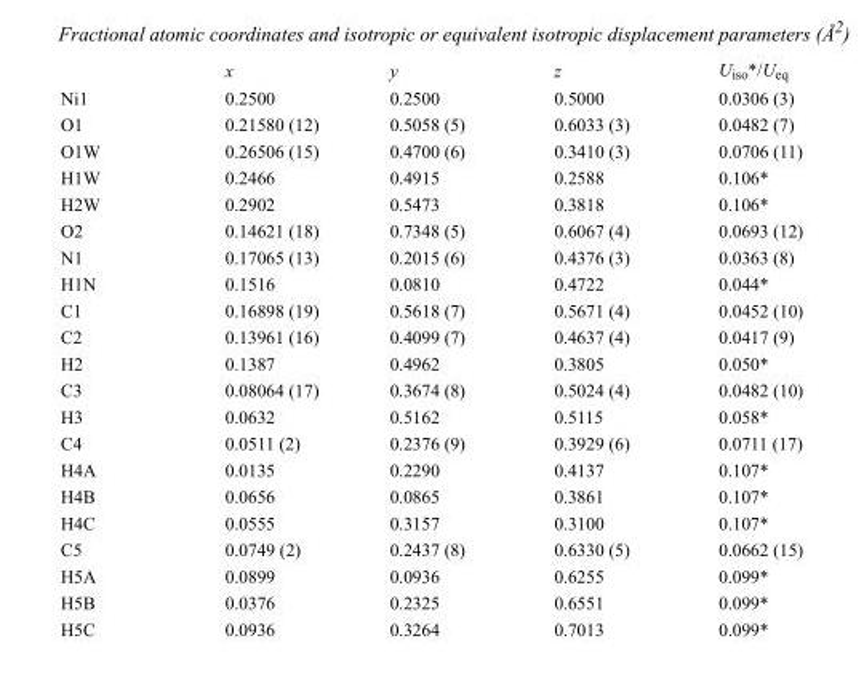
<table><thead><tr><td></td><td>x</td><td>y</td><td>z</td><td>U<sub>iso</sub>*/U<sub>eq</sub></td></tr></thead><tbody><tr><td>Ni1</td><td>0.2500</td><td>0.2500</td><td>0.5000</td><td>0.0306 (3)</td></tr><tr><td>O1</td><td>0.21580 (12)</td><td>0.5058 (5)</td><td>0.6033 (3)</td><td>0.0482 (7)</td></tr><tr><td>O1W</td><td>0.26506 (15)</td><td>0.4700 (6)</td><td>0.3410 (3)</td><td>0.0706 (11)</td></tr><tr><td>H1W</td><td>0.2466</td><td>0.4915</td><td>0.2588</td><td>0.106*</td></tr><tr><td>H2W</td><td>0.2902</td><td>0.5473</td><td>0.3818</td><td>0.106*</td></tr><tr><td>O2</td><td>0.14621 (18)</td><td>0.7348 (5)</td><td>0.6067 (4)</td><td>0.0693 (12)</td></tr><tr><td>N1</td><td>0.17065 (13)</td><td>0.2015 (6)</td><td>0.4376 (3)</td><td>0.0363 (8)</td></tr><tr><td>H1N</td><td>0.1516</td><td>0.0810</td><td>0.4722</td><td>0.044*</td></tr><tr><td>C1</td><td>0.16898 (19)</td><td>0.5618 (7)</td><td>0.5671 (4)</td><td>0.0452 (10)</td></tr><tr><td>C2</td><td>0.13961 (16)</td><td>0.4099 (7)</td><td>0.4637 (4)</td><td>0.0417 (9)</td></tr><tr><td>H2</td><td>0.1387</td><td>0.4962</td><td>0.3805</td><td>0.050*</td></tr><tr><td>C3</td><td>0.08064 (17)</td><td>0.3674 (8)</td><td>0.5024 (4)</td><td>0.0482 (10)</td></tr><tr><td>H3</td><td>0.0632</td><td>0.5162</td><td>0.5115</td><td>0.058*</td></tr><tr><td>C4</td><td>0.0511 (2)</td><td>0.2376 (9)</td><td>0.3929 (6)</td><td>0.0711 (17)</td></tr><tr><td>H4A</td><td>0.0135</td><td>0.2290</td><td>0.4137</td><td>0.107*</td></tr><tr><td>H4B</td><td>0.0656</td><td>0.0865</td><td>0.3861</td><td>0.107*</td></tr><tr><td>H4C</td><td>0.0555</td><td>0.3157</td><td>0.3100</td><td>0.107*</td></tr><tr><td>C5</td><td>0.0749 (2)</td><td>0.2437 (8)</td><td>0.6330 (5)</td><td>0.0662 (15)</td></tr><tr><td>H5A</td><td>0.0899</td><td>0.0936</td><td>0.6255</td><td>0.099*</td></tr><tr><td>H5B</td><td>0.0376</td><td>0.2325</td><td>0.6551</td><td>0.099*</td></tr><tr><td>H5C</td><td>0.0936</td><td>0.3264</td><td>0.7013</td><td>0.099*</td></tr></tbody></table>